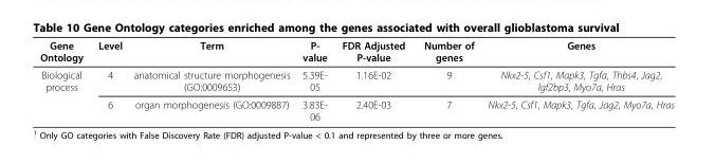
<table><thead><tr><td>Gene Ontology</td><td>Level</td><td>Term</td><td>P- value</td><td>FDR Adjusted P-value</td><td>Number of genes</td><td>Genes</td></tr></thead><tbody><tr><td rowspan="2">Biological process</td><td>4</td><td>anatomical structure morphogenesis (GO:0009653)</td><td>5.39E- 05</td><td>1.16E-02</td><td>9</td><td>Nkx2-5, Csf1, Mapk3, Tgfa, Thbs4, Jag2, Igf2bp3, Myo7a, Hras</td></tr><tr><td>6</td><td>organ morphogenesis (GO:0009887)</td><td>3.83E- 06</td><td>2.40E-03</td><td>7</td><td>Nkx2-5, Csf1, Mapk3, Tgfa, Jag2, Myo7a, Hras</td></tr></tbody></table>